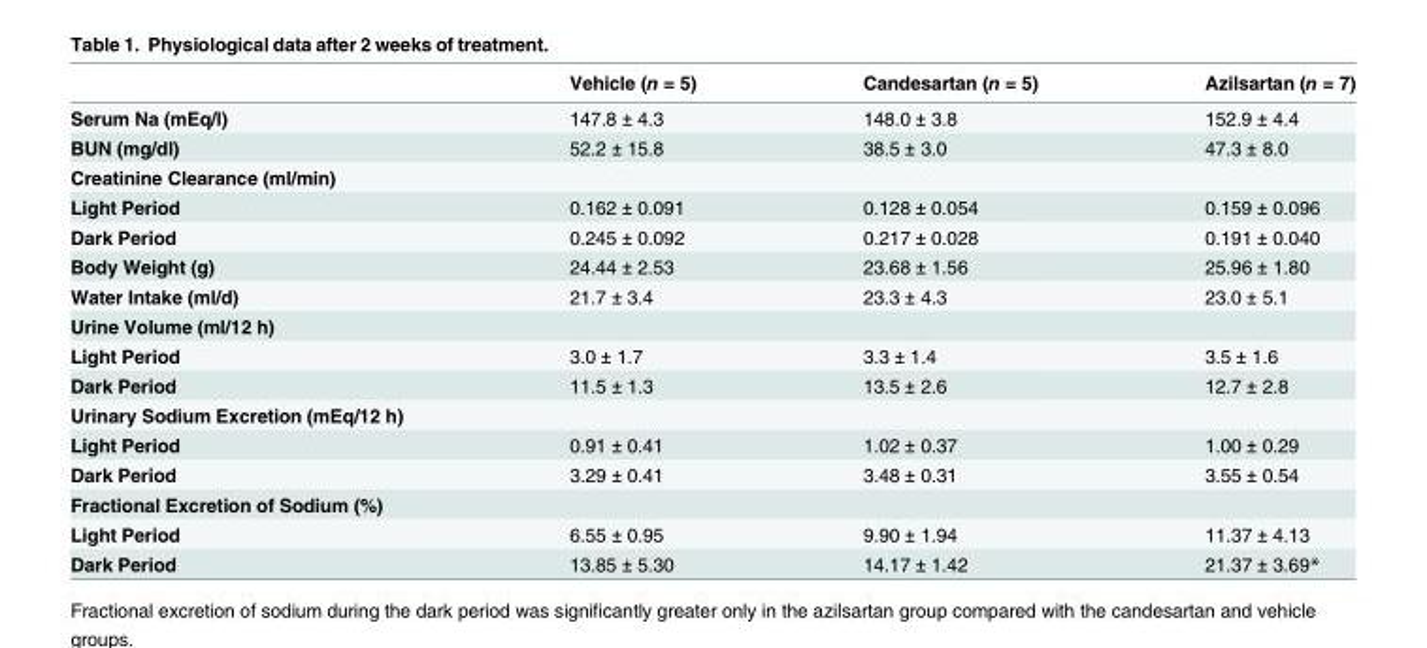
<table><thead><tr><td></td><td>Vehicle (n = 5)</td><td>Candesartan (n = 5)</td><td>Azilsartan (n = 7)</td></tr></thead><tbody><tr><td>Serum Na (mEq/l)</td><td>147.8 ± 4.3</td><td>148.0 ± 3.8</td><td>152.9 ± 4.4</td></tr><tr><td>BUN (mg/dl)</td><td>52.2 ± 15.8</td><td>38.5 ± 3.0</td><td>47.3 ± 8.0</td></tr><tr><td colspan="4">Creatinine Clearance (ml/min)</td></tr><tr><td>Light Period</td><td>0.162 ± 0.091</td><td>0.128 ± 0.054</td><td>0.159 ± 0.096</td></tr><tr><td>Dark Period</td><td>0.245 ± 0.092</td><td>0.217 ± 0.028</td><td>0.191 ± 0.040</td></tr><tr><td>Body Weight (g)</td><td>24.44 ± 2.53</td><td>23.68 ± 1.56</td><td>25.96 ± 1.80</td></tr><tr><td>Water Intake (ml/d)</td><td>21.7 ± 3.4</td><td>23.3 ± 4.3</td><td>23.0 ± 5.1</td></tr><tr><td colspan="4">Urine Volume (ml/12 h)</td></tr><tr><td>Light Period</td><td>3.0 ± 1.7</td><td>3.3 ± 1.4</td><td>3.5 ± 1.6</td></tr><tr><td>Dark Period</td><td>11.5 ± 1.3</td><td>13.5 ± 2.6</td><td>12.7 ± 2.8</td></tr><tr><td colspan="4">Urinary Sodium Excretion (mEq/12 h)</td></tr><tr><td>Light Period</td><td>0.91 ± 0.41</td><td>1.02 ± 0.37</td><td>1.00 ± 0.29</td></tr><tr><td>Dark Period</td><td>3.29 ± 0.41</td><td>3.48 ± 0.31</td><td>3.55 ± 0.54</td></tr><tr><td colspan="4">Fractional Excretion of Sodium (%)</td></tr><tr><td>Light Period</td><td>6.55 ± 0.95</td><td>9.90 ± 1.94</td><td>11.37 ± 4.13</td></tr><tr><td>Dark Period</td><td>13.85 ± 5.30</td><td>14.17 ± 1.42</td><td>21.37 ± 3.69*</td></tr></tbody></table>